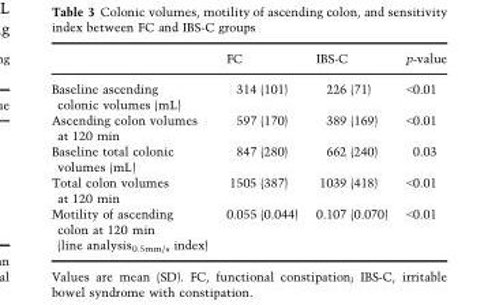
<table><thead><tr><td></td><td>FC</td><td>IBS-C</td><td>p-value</td></tr></thead><tbody><tr><td>Baseline ascending colonic volumes (mL)</td><td>314 (101)</td><td>226 (71)</td><td>&lt;0.01</td></tr><tr><td>Ascending colon volumes at 120 min</td><td>597 (170)</td><td>389 (169)</td><td>&lt;0.01</td></tr><tr><td>Baseline total colonic volumes (mL)</td><td>847 (280)</td><td>662 (240)</td><td>0.03</td></tr><tr><td>Total colon volumes at 120 min</td><td>1505 (387)</td><td>1039 (418)</td><td>&lt;0.01</td></tr><tr><td>Motility of ascending colon at 120 min (line analysis<sub>0.5mm/s</sub> index)</td><td>0.055 (0.044)</td><td>0.107 (0.070)</td><td>&lt;0.01</td></tr></tbody></table>